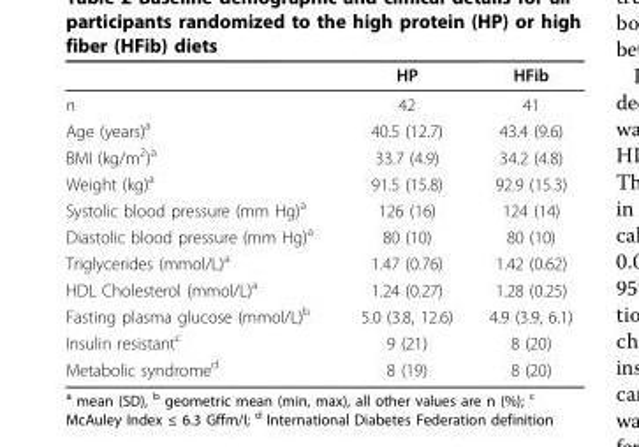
<table><thead><tr><td></td><td>HP</td><td>HFib</td></tr></thead><tbody><tr><td>n</td><td>42</td><td>41</td></tr><tr><td>Age (years)<sup>a</sup></td><td>40.5 (12.7)</td><td>43.4 (9.6)</td></tr><tr><td>BMI (kg/m<sup>2</sup>)<sup>a</sup></td><td>33.7 (4.9)</td><td>34.2 (4.8)</td></tr><tr><td>Weight (kg)<sup>a</sup></td><td>91.5 (15.8)</td><td>92.9 (15.3)</td></tr><tr><td>Systolic blood pressure (mm Hg)<sup>a</sup></td><td>126 (16)</td><td>124 (14)</td></tr><tr><td>Diastolic blood pressure (mm Hg)<sup>a</sup></td><td>80 (10)</td><td>80 (10)</td></tr><tr><td>Triglycerides (mmol/L)<sup>a</sup></td><td>1.47 (0.76)</td><td>1.42 (0.62)</td></tr><tr><td>HDL Cholesterol (mmol/L)<sup>a</sup></td><td>1.24 (0.27)</td><td>1.28 (0.25)</td></tr><tr><td>Fasting plasma glucose (mmol/L)<sup>b</sup></td><td>5.0 (3.8, 12.6)</td><td>4.9 (3.9, 6.1)</td></tr><tr><td>Insulin resistant<sup>c</sup></td><td>9 (21)</td><td>8 (20)</td></tr><tr><td>Metabolic syndrome<sup>d</sup></td><td>8 (19)</td><td>8 (20)</td></tr></tbody></table>